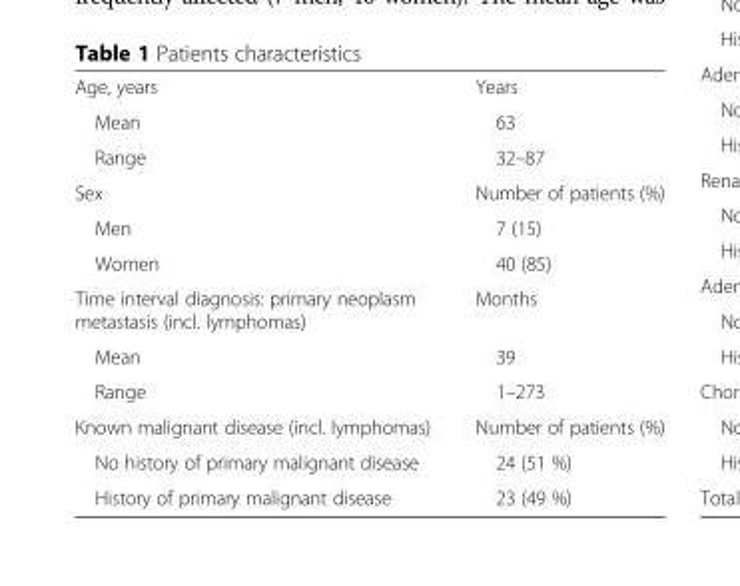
<table><tbody><tr><td>Age, years</td><td>Years</td></tr><tr><td>Mean</td><td>63</td></tr><tr><td>Range</td><td>32–87</td></tr><tr><td>Sex</td><td>Number of patients (%)</td></tr><tr><td>Men</td><td>7 (15)</td></tr><tr><td>Women</td><td>40 (85)</td></tr><tr><td>Time interval diagnosis: primary neoplasm metastasis (incl. lymphomas)</td><td>Months</td></tr><tr><td>Mean</td><td>39</td></tr><tr><td>Range</td><td>1–273</td></tr><tr><td>Known malignant disease (incl. lymphomas)</td><td>Number of patients (%)</td></tr><tr><td>No history of primary malignant disease</td><td>24 (51 %)</td></tr><tr><td>History of primary malignant disease</td><td>23 (49 %)</td></tr></tbody></table>